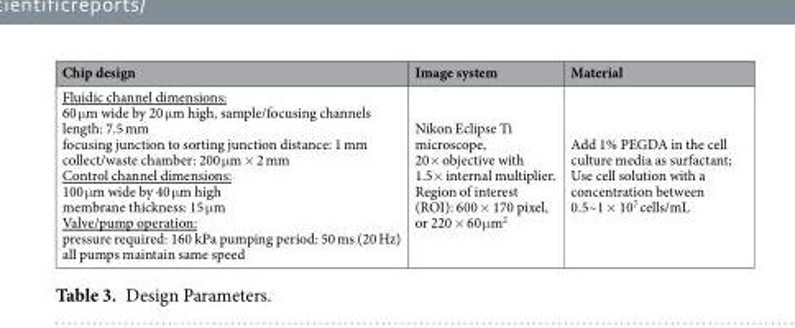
<table><thead><tr><td>Chip design</td><td>Image system</td><td>Material</td></tr></thead><tbody><tr><td>Fluidic channel dimensions: 60 μm wide by 20 μm high, sample/focusing channels length: 7.5 mm focusing junction to sorting junction distance: 1 mm collect/waste chamber: 200 μm × 2 mm Control channel dimensions: 100 μm wide by 40 μm high membrane thickness: 15 μm Valve/pump operation: pressure required: 160 kPa pumping period: 50 ms (20 Hz) all pumps maintain same speed</td><td>Nikon Eclipse Ti microscope, 20× objective with 1.5× internal multiplier. Region of interest (ROI): 600 × 170 pixel, or 220 × 60 μm<sup>2</sup></td><td>Add 1% PEGDA in the cell culture media as surfactant; Use cell solution with a concentration between 0.5~1 × 10<sup>7</sup> cells/mL</td></tr></tbody></table>